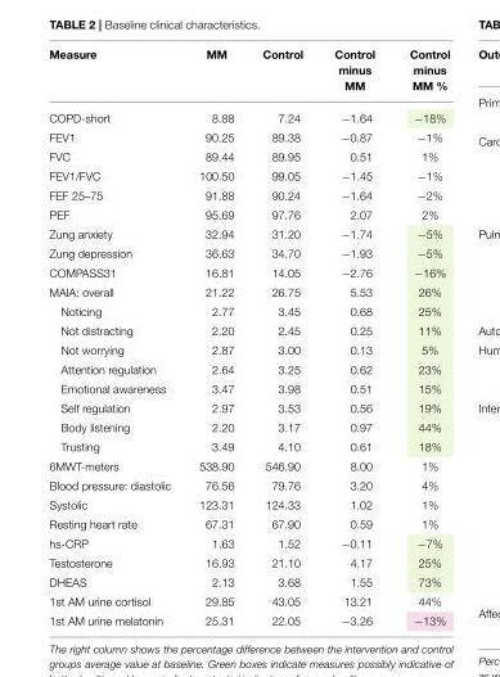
<table><thead><tr><td>Measure</td><td>MM</td><td>Control</td><td>Control minus MM</td><td>Control minus MM %</td></tr></thead><tbody><tr><td>COPD-short</td><td>8.88</td><td>7.24</td><td>−1.64</td><td>−18%</td></tr><tr><td>FEV1</td><td>90.25</td><td>89.38</td><td>−0.87</td><td>−1%</td></tr><tr><td>FVC</td><td>89.44</td><td>89.95</td><td>0.51</td><td>1%</td></tr><tr><td>FEV1/FVC</td><td>100.50</td><td>99.05</td><td>−1.45</td><td>−1%</td></tr><tr><td>FEF 25–75</td><td>91.88</td><td>90.24</td><td>−1.64</td><td>−2%</td></tr><tr><td>PEF</td><td>95.69</td><td>97.76</td><td>2.07</td><td>2%</td></tr><tr><td>Zung anxiety</td><td>32.94</td><td>31.20</td><td>−1.74</td><td>−5%</td></tr><tr><td>Zung depression</td><td>36.63</td><td>34.70</td><td>−1.93</td><td>−5%</td></tr><tr><td>COMPASS31</td><td>16.81</td><td>14.05</td><td>−2.76</td><td>−16%</td></tr><tr><td>MAIA: overall</td><td>21.22</td><td>26.75</td><td>5.53</td><td>26%</td></tr><tr><td>Noticing</td><td>2.77</td><td>3.45</td><td>0.68</td><td>25%</td></tr><tr><td>Not distracting</td><td>2.20</td><td>2.45</td><td>0.25</td><td>11%</td></tr><tr><td>Not worrying</td><td>2.87</td><td>3.00</td><td>0.13</td><td>5%</td></tr><tr><td>Attention regulation</td><td>2.64</td><td>3.25</td><td>0.62</td><td>23%</td></tr><tr><td>Emotional awareness</td><td>3.47</td><td>3.98</td><td>0.51</td><td>15%</td></tr><tr><td>Self regulation</td><td>2.97</td><td>3.53</td><td>0.56</td><td>19%</td></tr><tr><td>Body listening</td><td>2.20</td><td>3.17</td><td>0.97</td><td>44%</td></tr><tr><td>Trusting</td><td>3.49</td><td>4.10</td><td>0.61</td><td>18%</td></tr><tr><td>6MWT-meters</td><td>538.90</td><td>546.90</td><td>8.00</td><td>1%</td></tr><tr><td>Blood pressure: diastolic</td><td>76.56</td><td>79.76</td><td>3.20</td><td>4%</td></tr><tr><td>Systolic</td><td>123.31</td><td>124.33</td><td>1.02</td><td>1%</td></tr><tr><td>Resting heart rate</td><td>67.31</td><td>67.90</td><td>0.59</td><td>1%</td></tr><tr><td>hs-CRP</td><td>1.63</td><td>1.52</td><td>−0.11</td><td>−7%</td></tr><tr><td>Testosterone</td><td>16.93</td><td>21.10</td><td>4.17</td><td>25%</td></tr><tr><td>DHEAS</td><td>2.13</td><td>3.68</td><td>1.55</td><td>73%</td></tr><tr><td>1st AM urine cortisol</td><td>29.85</td><td>43.05</td><td>13.21</td><td>44%</td></tr><tr><td>1st AM urine melatonin</td><td>25.31</td><td>22.05</td><td>−3.26</td><td>−13%</td></tr></tbody></table>